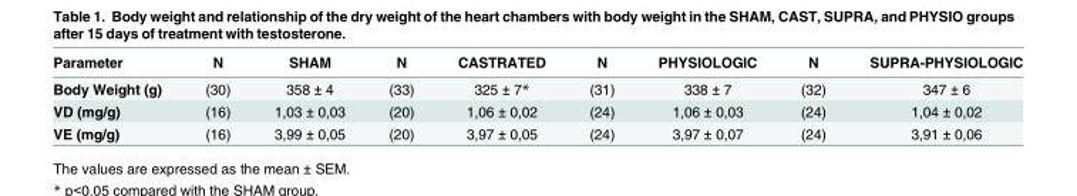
<table><thead><tr><td>Parameter</td><td>N</td><td>SHAM</td><td>N</td><td>CASTRATED</td><td>N</td><td>PHYSIOLOGIC</td><td>N</td><td>SUPRA-PHYSIOLOGIC</td></tr></thead><tbody><tr><td>Body Weight (g)</td><td>(30)</td><td>358 ± 4</td><td>(33)</td><td>325 ± 7*</td><td>(31)</td><td>338 ± 7</td><td>(32)</td><td>347 ± 6</td></tr><tr><td>VD (mg/g)</td><td>(16)</td><td>1,03 ± 0,03</td><td>(20)</td><td>1,06 ± 0,02</td><td>(24)</td><td>1,06 ± 0,03</td><td>(24)</td><td>1,04 ± 0,02</td></tr><tr><td>VE (mg/g)</td><td>(16)</td><td>3,99 ± 0,05</td><td>(20)</td><td>3,97 ± 0,05</td><td>(24)</td><td>3,97 ± 0,07</td><td>(24)</td><td>3,91 ± 0,06</td></tr></tbody></table>